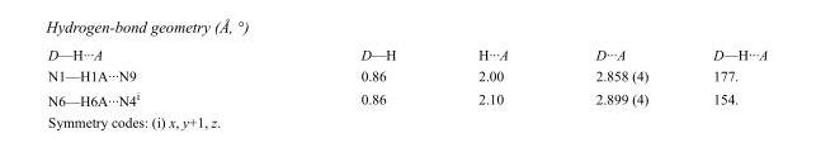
<table><tbody><tr><td>D—H···A</td><td>D—H</td><td>H···A</td><td>D···A</td><td>D—H···A</td></tr><tr><td>N1—H1A···N9</td><td>0.86</td><td>2.00</td><td>2.858 (4)</td><td>177.</td></tr><tr><td>N6—H6A···N4<sup>i</sup></td><td>0.86</td><td>2.10</td><td>2.899 (4)</td><td>154.</td></tr></tbody></table>